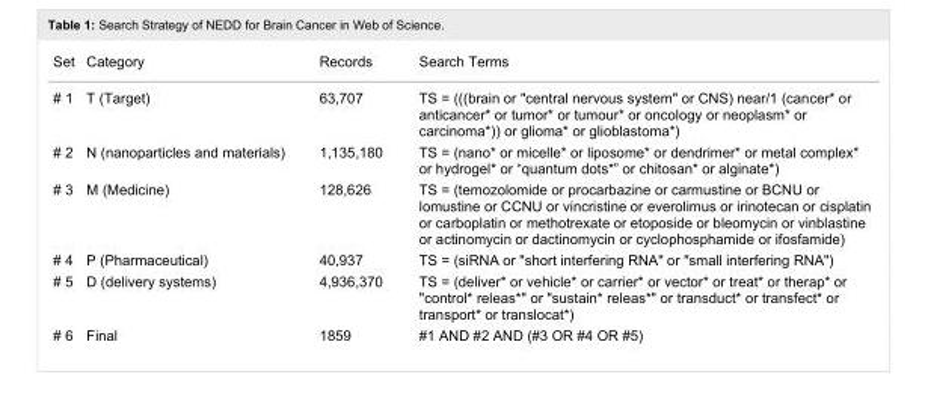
<table><tbody><tr><td>Set</td><td>Category</td><td>Records</td><td>Search Terms</td></tr><tr><td># 1</td><td>T (Target)</td><td>63,707</td><td>TS = (((brain or &quot;central nervous system&quot; or CNS) near/1 (cancer* or anticancer* or tumor* or tumour* or oncology or neoplasm* or carcinoma*)) or glioma* or glioblastoma*)</td></tr><tr><td># 2</td><td>N (nanoparticles and materials)</td><td>1,135,180</td><td>TS = (nano* or micelle* or liposome* or dendrimer* or metal complex* or hydrogel* or “quantum dots*” or chitosan* or alginate*)</td></tr><tr><td># 3</td><td>M (Medicine)</td><td>128,626</td><td>TS = (temozolomide or procarbazine or carmustine or BCNU or lomustine or CCNU or vincristine or everolimus or irinotecan or cisplatin or carboplatin or methotrexate or etoposide or bleomycin or vinblastine or actinomycin or dactinomycin or cyclophosphamide or ifosfamide)</td></tr><tr><td># 4</td><td>P (Pharmaceutical)</td><td>40,937</td><td>TS = (siRNA or &quot;short interfering RNA&quot; or &quot;small interfering RNA&quot;)</td></tr><tr><td># 5</td><td>D (delivery systems)</td><td>4,936,370</td><td>TS = (deliver* or vehicle* or carrier* or vector* or treat* or therap* or &quot;control* releas*&quot; or &quot;sustain* releas*&quot; or transduct* or transfect* or transport* or translocat*)</td></tr><tr><td># 6</td><td>Final</td><td>1859</td><td>#1 AND #2 AND (#3 OR #4 OR #5)</td></tr></tbody></table>